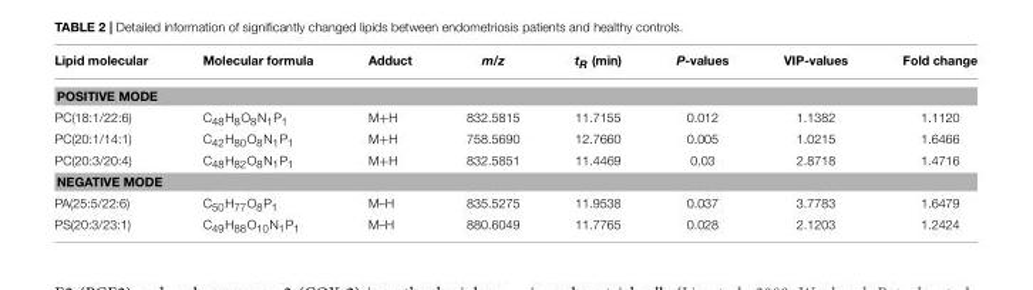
<table><thead><tr><td>Lipid molecular</td><td>Molecular formula</td><td>Adduct</td><td>m/z</td><td>tR (min)</td><td>P-values</td><td>VIP-values</td><td>Fold change</td></tr></thead><tbody><tr><td colspan="8">POSITIVE MODE</td></tr><tr><td>PC(18:1/22:6)</td><td>C<sub>48</sub>H<sub>8</sub>O<sub>8</sub>N<sub>1</sub>P<sub>1</sub></td><td>M+H</td><td>832.5815</td><td>11.7155</td><td>0.012</td><td>1.1382</td><td>1.1120</td></tr><tr><td>PC(20:1/14:1)</td><td>C<sub>42</sub>H<sub>80</sub>O<sub>8</sub>N<sub>1</sub>P<sub>1</sub></td><td>M+H</td><td>758.5690</td><td>12.7660</td><td>0.005</td><td>1.0215</td><td>1.6466</td></tr><tr><td>PC(20:3/20:4)</td><td>C<sub>48</sub>H<sub>82</sub>O<sub>8</sub>N<sub>1</sub>P<sub>1</sub></td><td>M+H</td><td>832.5851</td><td>11.4469</td><td>0.03</td><td>2.8718</td><td>1.4716</td></tr><tr><td colspan="8">NEGATIVE MODE</td></tr><tr><td>PA(25:5/22:6)</td><td>C<sub>50</sub>H<sub>77</sub>O<sub>8</sub>P<sub>1</sub></td><td>M–H</td><td>835.5275</td><td>11.9538</td><td>0.037</td><td>3.7783</td><td>1.6479</td></tr><tr><td>PS(20:3/23:1)</td><td>C<sub>49</sub>H<sub>88</sub>O<sub>10</sub>N<sub>1</sub>P<sub>1</sub></td><td>M–H</td><td>880.6049</td><td>11.7765</td><td>0.028</td><td>2.1203</td><td>1.2424</td></tr></tbody></table>